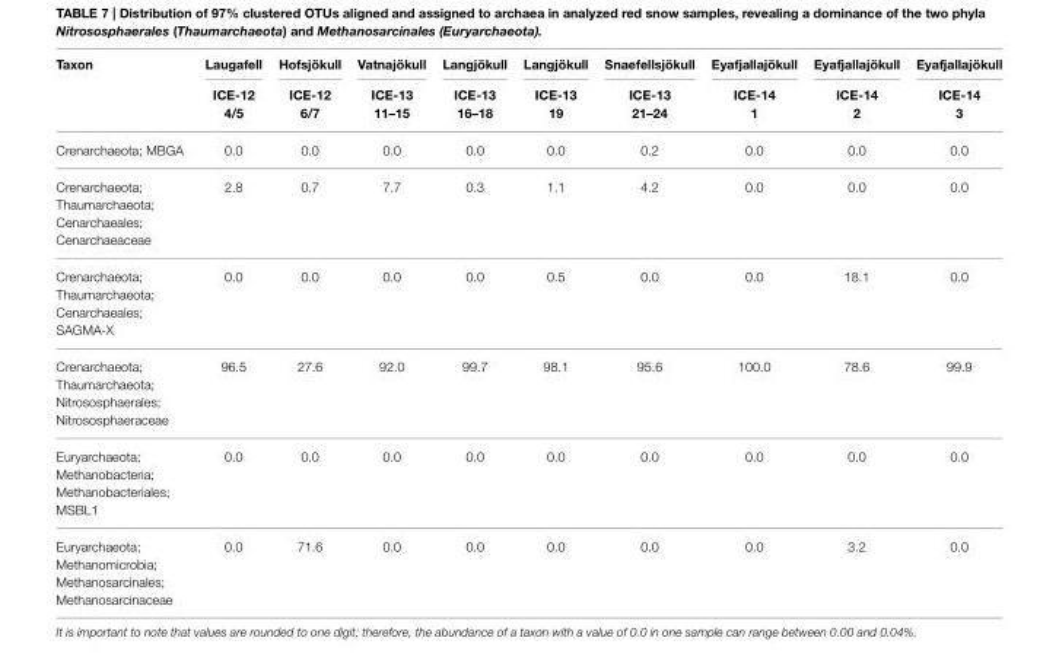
<table><thead><tr><td rowspan="2">Taxon</td><td rowspan="2">Laugafell ICE-12 4/5</td><td rowspan="2">Hofsjökull ICE-12 6/7</td><td rowspan="2">Vatnajökull ICE-13 11–15</td><td rowspan="2">Langjökull ICE-13 16–18</td><td rowspan="2">Langjökull ICE-13 19</td><td rowspan="2">Snaefellsjökull ICE-13 21–24</td><td rowspan="2">Eyafjallajökull ICE-14 1</td><td rowspan="2">Eyafjallajökull ICE-14 2</td><td rowspan="2">Eyafjallajökull ICE-14 3</td></tr><tr></tr></thead><tbody><tr><td>Crenarchaeota; MBGA</td><td>0.0</td><td>0.0</td><td>0.0</td><td>0.0</td><td>0.0</td><td>0.2</td><td>0.0</td><td>0.0</td><td>0.0</td></tr><tr><td>Crenarchaeota; Thaumarchaeota; Cenarchaeales; Cenarchaeaceae</td><td>2.8</td><td>0.7</td><td>7.7</td><td>0.3</td><td>1.1</td><td>4.2</td><td>0.0</td><td>0.0</td><td>0.0</td></tr><tr><td>Crenarchaeota; Thaumarchaeota; Cenarchaeales; SAGMA-X</td><td>0.0</td><td>0.0</td><td>0.0</td><td>0.0</td><td>0.5</td><td>0.0</td><td>0.0</td><td>18.1</td><td>0.0</td></tr><tr><td>Crenarchaeota; Thaumarchaeota; Nitrososphaerales; Nitrososphaeraceae</td><td>96.5</td><td>27.6</td><td>92.0</td><td>99.7</td><td>98.1</td><td>95.6</td><td>100.0</td><td>78.6</td><td>99.9</td></tr><tr><td>Euryarchaeota; Methanobacteria; Methanobacteriales; MSBL1</td><td>0.0</td><td>0.0</td><td>0.0</td><td>0.0</td><td>0.0</td><td>0.0</td><td>0.0</td><td>0.0</td><td>0.0</td></tr><tr><td>Euryarchaeota; Methanomicrobia; Methanosarcinales; Methanosarcinaceae</td><td>0.0</td><td>71.6</td><td>0.0</td><td>0.0</td><td>0.0</td><td>0.0</td><td>0.0</td><td>3.2</td><td>0.0</td></tr></tbody></table>